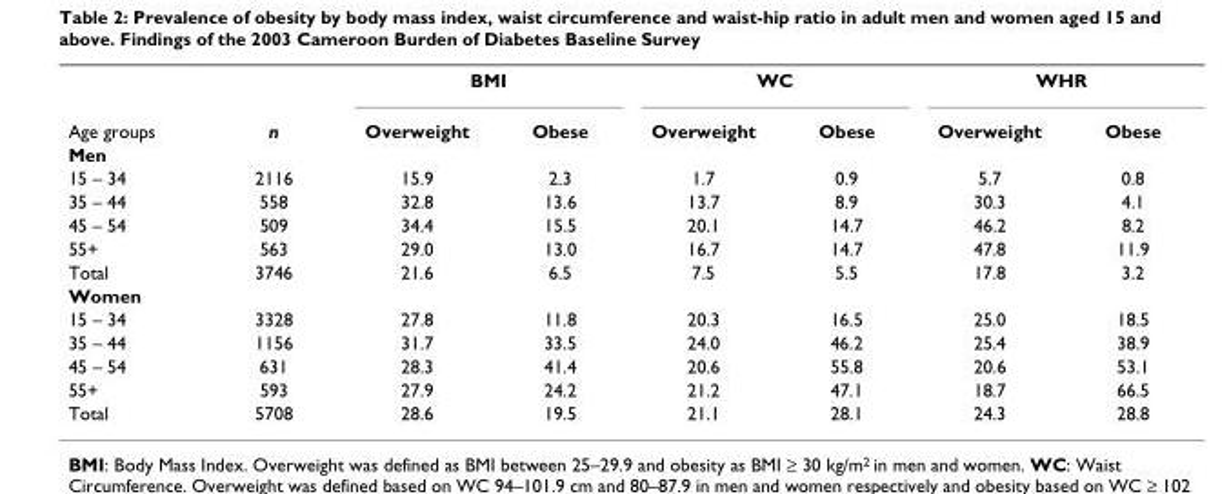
<table><thead><tr><td rowspan="2">Age groups</td><td rowspan="2">n</td><td colspan="2">BMI</td><td colspan="2">WC</td><td colspan="2">WHR</td></tr><tr><td>Overweight</td><td>Obese</td><td>Overweight</td><td>Obese</td><td>Overweight</td><td>Obese</td></tr></thead><tbody><tr><td colspan="8">Men</td></tr><tr><td>15 – 34</td><td>2116</td><td>15.9</td><td>2.3</td><td>1.7</td><td>0.9</td><td>5.7</td><td>0.8</td></tr><tr><td>35 – 44</td><td>558</td><td>32.8</td><td>13.6</td><td>13.7</td><td>8.9</td><td>30.3</td><td>4.1</td></tr><tr><td>45 – 54</td><td>509</td><td>34.4</td><td>15.5</td><td>20.1</td><td>14.7</td><td>46.2</td><td>8.2</td></tr><tr><td>55+</td><td>563</td><td>29.0</td><td>13.0</td><td>16.7</td><td>14.7</td><td>47.8</td><td>11.9</td></tr><tr><td>Total</td><td>3746</td><td>21.6</td><td>6.5</td><td>7.5</td><td>5.5</td><td>17.8</td><td>3.2</td></tr><tr><td colspan="8">Women</td></tr><tr><td>15 – 34</td><td>3328</td><td>27.8</td><td>11.8</td><td>20.3</td><td>16.5</td><td>25.0</td><td>18.5</td></tr><tr><td>35 – 44</td><td>1156</td><td>31.7</td><td>33.5</td><td>24.0</td><td>46.2</td><td>25.4</td><td>38.9</td></tr><tr><td>45 – 54</td><td>631</td><td>28.3</td><td>41.4</td><td>20.6</td><td>55.8</td><td>20.6</td><td>53.1</td></tr><tr><td>55+</td><td>593</td><td>27.9</td><td>24.2</td><td>21.2</td><td>47.1</td><td>18.7</td><td>66.5</td></tr><tr><td>Total</td><td>5708</td><td>28.6</td><td>19.5</td><td>21.1</td><td>28.1</td><td>24.3</td><td>28.8</td></tr></tbody></table>